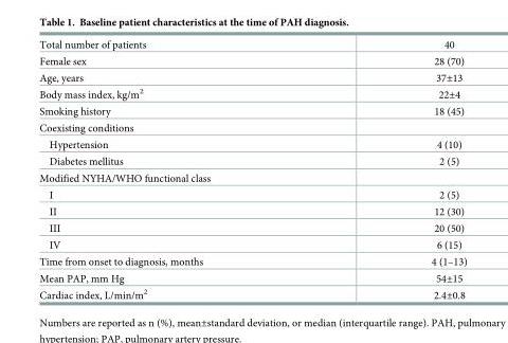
<table><tbody><tr><td>Total number of patients</td><td>40</td></tr><tr><td>Female sex</td><td>28 (70)</td></tr><tr><td>Age, years</td><td>37±13</td></tr><tr><td>Body mass index, kg/m<sup>2</sup></td><td>22±4</td></tr><tr><td>Smoking history</td><td>18 (45)</td></tr><tr><td colspan="2">Coexisting conditions</td></tr><tr><td>Hypertension</td><td>4 (10)</td></tr><tr><td>Diabetes mellitus</td><td>2 (5)</td></tr><tr><td colspan="2">Modified NYHA/WHO functional class</td></tr><tr><td>I</td><td>2 (5)</td></tr><tr><td>II</td><td>12 (30)</td></tr><tr><td>III</td><td>20 (50)</td></tr><tr><td>IV</td><td>6 (15)</td></tr><tr><td>Time from onset to diagnosis, months</td><td>4 (1–13)</td></tr><tr><td>Mean PAP, mm Hg</td><td>54±15</td></tr><tr><td>Cardiac index, L/min/m<sup>2</sup></td><td>2.4±0.8</td></tr></tbody></table>